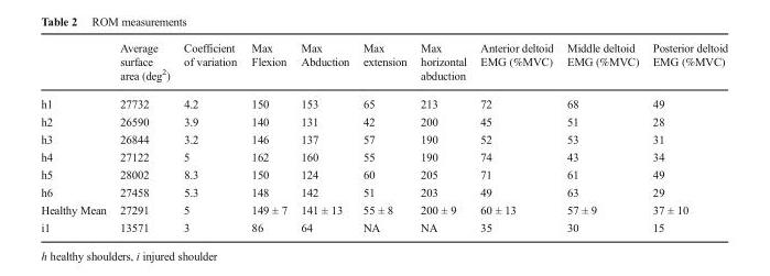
<table><thead><tr><td></td><td>Average surface area (deg<sup>2</sup>)</td><td>Coefficient of variation</td><td>Max Flexion</td><td>Max Abduction</td><td>Max extension</td><td>Max horizontal abduction</td><td>Anterior deltoid EMG (%MVC)</td><td>Middle deltoid EMG (%MVC)</td><td>Posterior deltoid EMG (%MVC)</td></tr></thead><tbody><tr><td>h1</td><td>27732</td><td>4.2</td><td>150</td><td>153</td><td>65</td><td>213</td><td>72</td><td>68</td><td>49</td></tr><tr><td>h2</td><td>26590</td><td>3.9</td><td>140</td><td>131</td><td>42</td><td>200</td><td>45</td><td>51</td><td>28</td></tr><tr><td>h3</td><td>26844</td><td>3.2</td><td>146</td><td>137</td><td>57</td><td>190</td><td>52</td><td>53</td><td>31</td></tr><tr><td>h4</td><td>27122</td><td>5</td><td>162</td><td>160</td><td>55</td><td>190</td><td>74</td><td>43</td><td>34</td></tr><tr><td>h5</td><td>28002</td><td>8.3</td><td>150</td><td>124</td><td>60</td><td>205</td><td>71</td><td>61</td><td>49</td></tr><tr><td>h6</td><td>27458</td><td>5.3</td><td>148</td><td>142</td><td>51</td><td>203</td><td>49</td><td>63</td><td>29</td></tr><tr><td>Healthy Mean</td><td>27291</td><td>5</td><td>149 ± 7</td><td>141 ± 13</td><td>55 ± 8</td><td>200 ± 9</td><td>60 ± 13</td><td>57 ± 9</td><td>37 ± 10</td></tr><tr><td>i1</td><td>13571</td><td>3</td><td>86</td><td>64</td><td>NA</td><td>NA</td><td>35</td><td>30</td><td>15</td></tr></tbody></table>